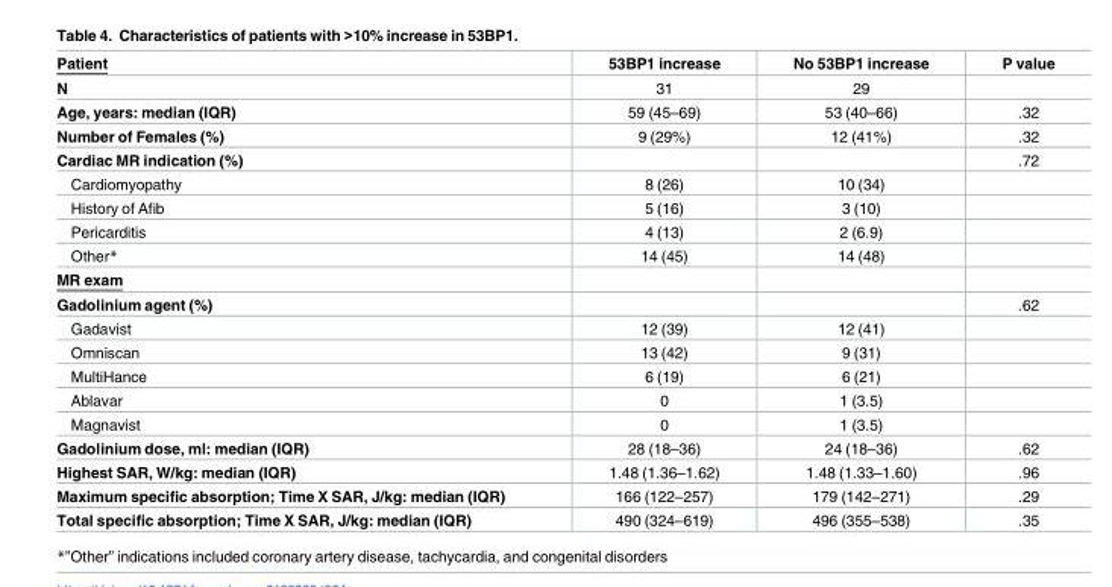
<table><thead><tr><td>Patient</td><td>53BP1 increase</td><td>No 53BP1 increase</td><td>P value</td></tr></thead><tbody><tr><td>N</td><td>31</td><td>29</td><td></td></tr><tr><td>Age, years: median (IQR)</td><td>59 (45–69)</td><td>53 (40–66)</td><td>.32</td></tr><tr><td>Number of Females (%)</td><td>9 (29%)</td><td>12 (41%)</td><td>.32</td></tr><tr><td>Cardiac MR indication (%)</td><td></td><td></td><td>.72</td></tr><tr><td>Cardiomyopathy</td><td>8 (26)</td><td>10 (34)</td><td></td></tr><tr><td>History of Afib</td><td>5 (16)</td><td>3 (10)</td><td></td></tr><tr><td>Pericarditis</td><td>4 (13)</td><td>2 (6.9)</td><td></td></tr><tr><td>Other*</td><td>14 (45)</td><td>14 (48)</td><td></td></tr><tr><td colspan="4">MR exam</td></tr><tr><td>Gadolinium agent (%)</td><td></td><td></td><td>.62</td></tr><tr><td>Gadavist</td><td>12 (39)</td><td>12 (41)</td><td></td></tr><tr><td>Omniscan</td><td>13 (42)</td><td>9 (31)</td><td></td></tr><tr><td>MultiHance</td><td>6 (19)</td><td>6 (21)</td><td></td></tr><tr><td>Ablavar</td><td>0</td><td>1 (3.5)</td><td></td></tr><tr><td>Magnavist</td><td>0</td><td>1 (3.5)</td><td></td></tr><tr><td>Gadolinium dose, ml: median (IQR)</td><td>28 (18–36)</td><td>24 (18–36)</td><td>.62</td></tr><tr><td>Highest SAR, W/kg: median (IQR)</td><td>1.48 (1.36–1.62)</td><td>1.48 (1.33–1.60)</td><td>.96</td></tr><tr><td>Maximum specific absorption; Time X SAR, J/kg: median (IQR)</td><td>166 (122–257)</td><td>179 (142–271)</td><td>.29</td></tr><tr><td>Total specific absorption; Time X SAR, J/kg: median (IQR)</td><td>490 (324–619)</td><td>496 (355–538)</td><td>.35</td></tr></tbody></table>